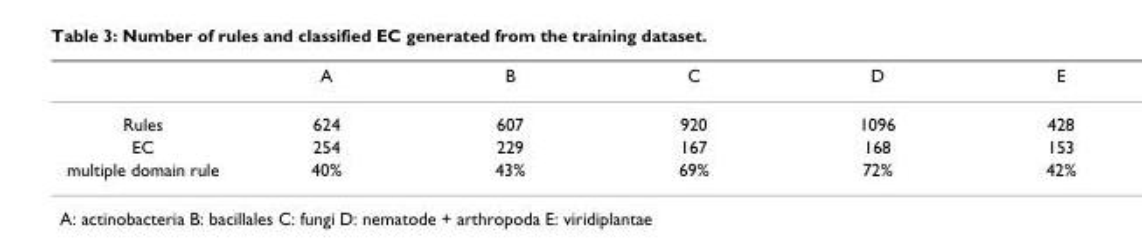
<table><thead><tr><td></td><td>A</td><td>B</td><td>C</td><td>D</td><td>E</td></tr></thead><tbody><tr><td>Rules</td><td>624</td><td>607</td><td>920</td><td>1096</td><td>428</td></tr><tr><td>EC</td><td>254</td><td>229</td><td>167</td><td>168</td><td>153</td></tr><tr><td>multiple domain rule</td><td>40%</td><td>43%</td><td>69%</td><td>72%</td><td>42%</td></tr></tbody></table>